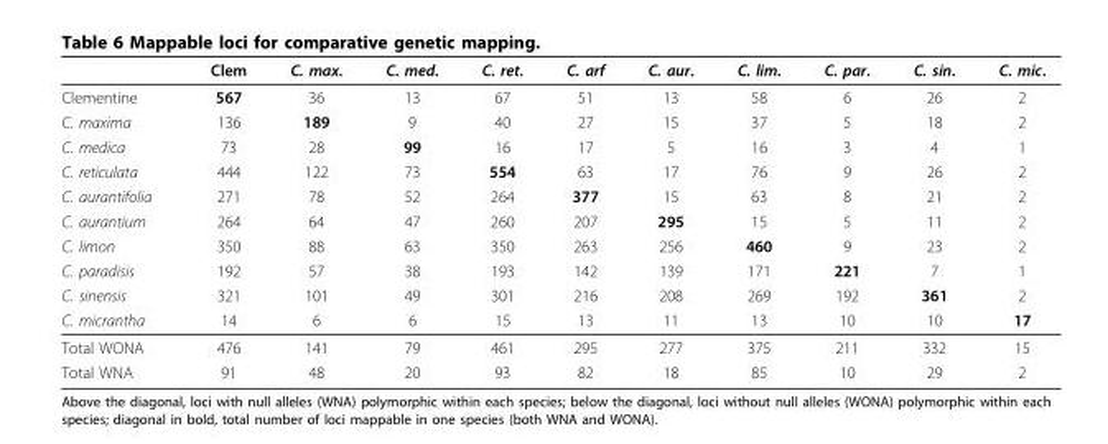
<table><thead><tr><td></td><td>Clem</td><td>C. max.</td><td>C. med.</td><td>C. ret.</td><td>C. arf</td><td>C. aur.</td><td>C. lim.</td><td>C. par.</td><td>C. sin.</td><td>C. mic.</td></tr></thead><tbody><tr><td>Clementine</td><td>567</td><td>36</td><td>13</td><td>67</td><td>51</td><td>13</td><td>58</td><td>6</td><td>26</td><td>2</td></tr><tr><td>C. maxima</td><td>136</td><td>189</td><td>9</td><td>40</td><td>27</td><td>15</td><td>37</td><td>5</td><td>18</td><td>2</td></tr><tr><td>C. medica</td><td>73</td><td>28</td><td>99</td><td>16</td><td>17</td><td>5</td><td>16</td><td>3</td><td>4</td><td>1</td></tr><tr><td>C. reticulata</td><td>444</td><td>122</td><td>73</td><td>554</td><td>63</td><td>17</td><td>76</td><td>9</td><td>26</td><td>2</td></tr><tr><td>C. aurantifolia</td><td>271</td><td>78</td><td>52</td><td>264</td><td>377</td><td>15</td><td>63</td><td>8</td><td>21</td><td>2</td></tr><tr><td>C. aurantium</td><td>264</td><td>64</td><td>47</td><td>260</td><td>207</td><td>295</td><td>15</td><td>5</td><td>11</td><td>2</td></tr><tr><td>C. limon</td><td>350</td><td>88</td><td>63</td><td>350</td><td>263</td><td>256</td><td>460</td><td>9</td><td>23</td><td>2</td></tr><tr><td>C. paradisis</td><td>192</td><td>57</td><td>38</td><td>193</td><td>142</td><td>139</td><td>171</td><td>221</td><td>7</td><td>1</td></tr><tr><td>C. sinensis</td><td>321</td><td>101</td><td>49</td><td>301</td><td>216</td><td>208</td><td>269</td><td>192</td><td>361</td><td>2</td></tr><tr><td>C. micrantha</td><td>14</td><td>6</td><td>6</td><td>15</td><td>13</td><td>11</td><td>13</td><td>10</td><td>10</td><td>17</td></tr><tr><td>Total WONA</td><td>476</td><td>141</td><td>79</td><td>461</td><td>295</td><td>277</td><td>375</td><td>211</td><td>332</td><td>15</td></tr><tr><td>Total WNA</td><td>91</td><td>48</td><td>20</td><td>93</td><td>82</td><td>18</td><td>85</td><td>10</td><td>29</td><td>2</td></tr></tbody></table>